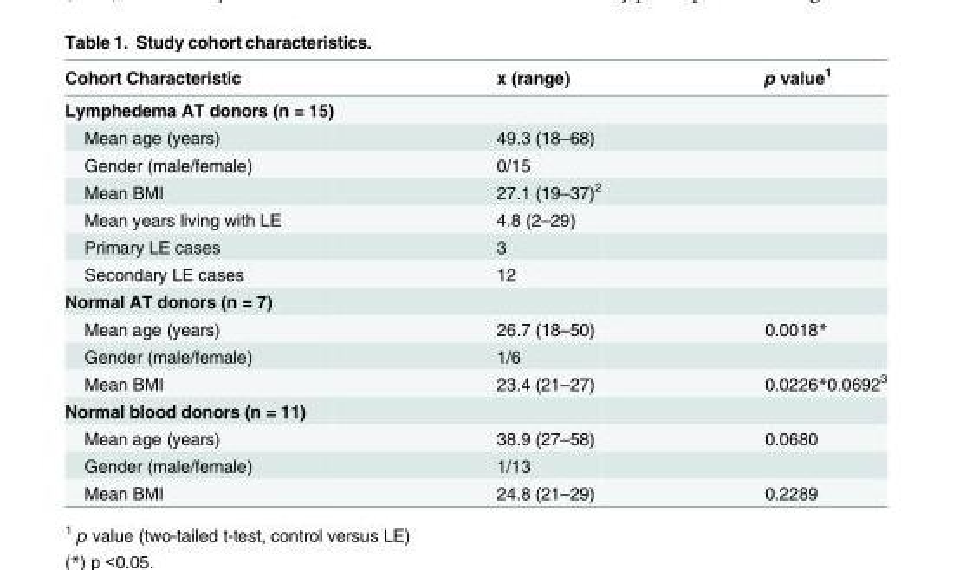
<table><thead><tr><td>Cohort Characteristic</td><td>x (range)</td><td>p value<sup>1</sup></td></tr></thead><tbody><tr><td colspan="3">Lymphedema AT donors (n = 15)</td></tr><tr><td>Mean age (years)</td><td>49.3 (18–68)</td><td></td></tr><tr><td>Gender (male/female)</td><td>0/15</td><td></td></tr><tr><td>Mean BMI</td><td>27.1 (19–37)<sup>2</sup></td><td></td></tr><tr><td>Mean years living with LE</td><td>4.8 (2–29)</td><td></td></tr><tr><td>Primary LE cases</td><td>3</td><td></td></tr><tr><td>Secondary LE cases</td><td>12</td><td></td></tr><tr><td colspan="3">Normal AT donors (n = 7)</td></tr><tr><td>Mean age (years)</td><td>26.7 (18–50)</td><td>0.0018*</td></tr><tr><td>Gender (male/female)</td><td>1/6</td><td></td></tr><tr><td>Mean BMI</td><td>23.4 (21–27)</td><td>0.0226*0.0692<sup>3</sup></td></tr><tr><td colspan="3">Normal blood donors (n = 11)</td></tr><tr><td>Mean age (years)</td><td>38.9 (27–58)</td><td>0.0680</td></tr><tr><td>Gender (male/female)</td><td>1/13</td><td></td></tr><tr><td>Mean BMI</td><td>24.8 (21–29)</td><td>0.2289</td></tr></tbody></table>